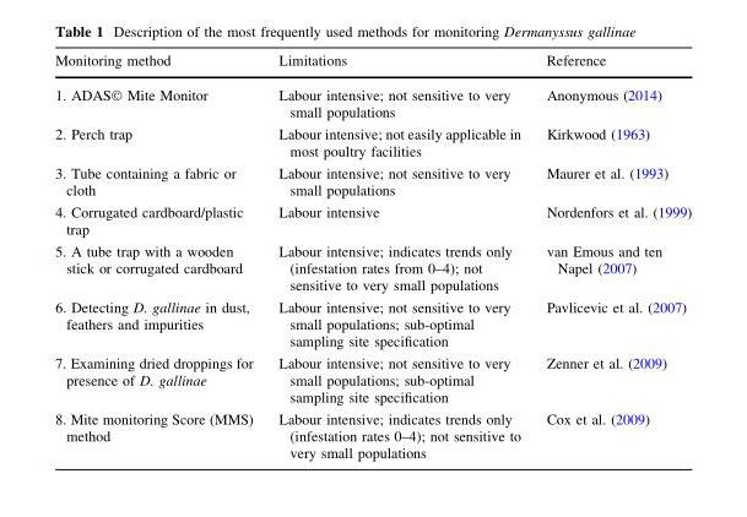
<table><thead><tr><td>Monitoring method</td><td>Limitations</td><td>Reference</td></tr></thead><tbody><tr><td>1. ADAS© Mite Monitor</td><td>Labour intensive; not sensitive to very small populations</td><td>Anonymous (2014)</td></tr><tr><td>2. Perch trap</td><td>Labour intensive; not easily applicable in most poultry facilities</td><td>Kirkwood (1963)</td></tr><tr><td>3. Tube containing a fabric or cloth</td><td>Labour intensive; not sensitive to very small populations</td><td>Maurer et al. (1993)</td></tr><tr><td>4. Corrugated cardboard/plastic trap</td><td>Labour intensive</td><td>Nordenfors et al. (1999)</td></tr><tr><td>5. A tube trap with a wooden stick or corrugated cardboard</td><td>Labour intensive; indicates trends only (infestation rates from 0–4); not sensitive to very small populations</td><td>van Emous and ten Napel (2007)</td></tr><tr><td>6. Detecting D. gallinae in dust, feathers and impurities</td><td>Labour intensive; not sensitive to very small populations; sub-optimal sampling site specification</td><td>Pavlicevic et al. (2007)</td></tr><tr><td>7. Examining dried droppings for presence of D. gallinae</td><td>Labour intensive; not sensitive to very small populations; sub-optimal sampling site specification</td><td>Zenner et al. (2009)</td></tr><tr><td>8. Mite monitoring Score (MMS) method</td><td>Labour intensive; indicates trends only (infestation rates 0–4); not sensitive to very small populations</td><td>Cox et al. (2009)</td></tr></tbody></table>